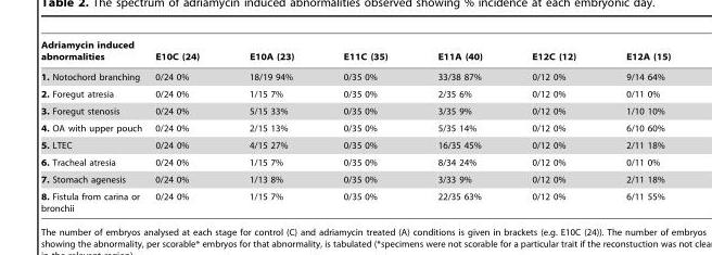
<table><thead><tr><td>Adriamycin induced abnormalities</td><td>E10C (24)</td><td>E10A (23)</td><td>E11C (35)</td><td>E11A (40)</td><td>E12C (12)</td><td>E12A (15)</td></tr></thead><tbody><tr><td>1. Notochord branching</td><td>0/24 0%</td><td>18/19 94%</td><td>0/35 0%</td><td>33/38 87%</td><td>0/12 0%</td><td>9/14 64%</td></tr><tr><td>2. Foregut atresia</td><td>0/24 0%</td><td>1/15 7%</td><td>0/35 0%</td><td>2/35 6%</td><td>0/12 0%</td><td>0/11 0%</td></tr><tr><td>3. Foregut stenosis</td><td>0/24 0%</td><td>5/15 33%</td><td>0/35 0%</td><td>3/35 9%</td><td>0/12 0%</td><td>1/10 10%</td></tr><tr><td>4. OA with upper pouch</td><td>0/24 0%</td><td>2/15 13%</td><td>0/35 0%</td><td>5/35 14%</td><td>0/12 0%</td><td>6/10 60%</td></tr><tr><td>5. LTEC</td><td>0/24 0%</td><td>4/15 27%</td><td>0/35 0%</td><td>16/35 45%</td><td>0/12 0%</td><td>2/11 18%</td></tr><tr><td>6. Tracheal atresia</td><td>0/24 0%</td><td>1/15 7%</td><td>0/35 0%</td><td>8/34 24%</td><td>0/12 0%</td><td>0/11 0%</td></tr><tr><td>7. Stomach agenesis</td><td>0/24 0%</td><td>1/13 8%</td><td>0/35 0%</td><td>3/33 9%</td><td>0/12 0%</td><td>2/11 18%</td></tr><tr><td>8. Fistula from carina or bronchii</td><td>0/24 0%</td><td>1/15 7%</td><td>0/35 0%</td><td>22/35 63%</td><td>0/12 0%</td><td>6/11 55%</td></tr></tbody></table>